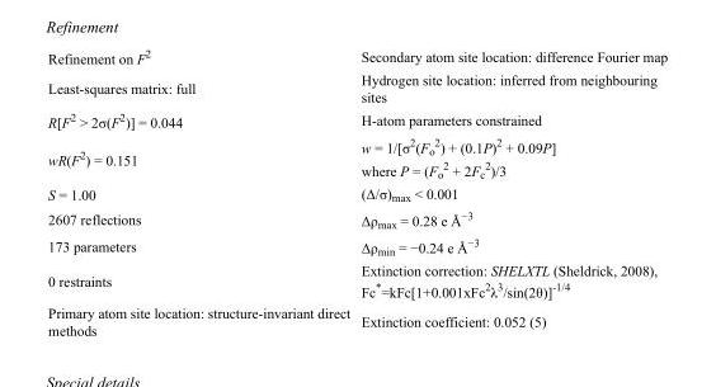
<table><tbody><tr><td>Refinement on F<sup>2</sup></td><td>Secondary atom site location: difference Fourier map</td></tr><tr><td>Least-squares matrix: full</td><td>Hydrogen site location: inferred from neighbouring sites</td></tr><tr><td>R[F<sup>2</sup> &gt; 2σ(F<sup>2</sup>)] = 0.044</td><td>H-atom parameters constrained</td></tr><tr><td>wR(F<sup>2</sup>) = 0.151</td><td>w = 1/[σ<sup>2</sup>(F<sub>o</sub> <sup>2</sup>) + (0.1P)<sup>2</sup> + 0.09P] where P = (F<sub>o</sub> <sup>2</sup> + 2F<sub>c</sub> <sup>2</sup>)/3</td></tr><tr><td>S = 1.00</td><td>(Δ/σ)<sub>max</sub> &lt; 0.001</td></tr><tr><td>2607 reflections</td><td>Δρ<sub>max</sub> = 0.28 e Å<sup>−3</sup></td></tr><tr><td>173 parameters</td><td>Δρ<sub>min</sub> = −0.24 e Å<sup>−3</sup></td></tr><tr><td>0 restraints</td><td>Extinction correction: SHELXTL (Sheldrick, 2008), Fc*=kFc[1+0.001xFc<sup>2</sup>λ<sup>3</sup>/sin(2θ)]<sup>-1/4</sup></td></tr><tr><td>Primary atom site location: structure-invariant direct methods</td><td>Extinction coefficient: 0.052 (5)</td></tr></tbody></table>